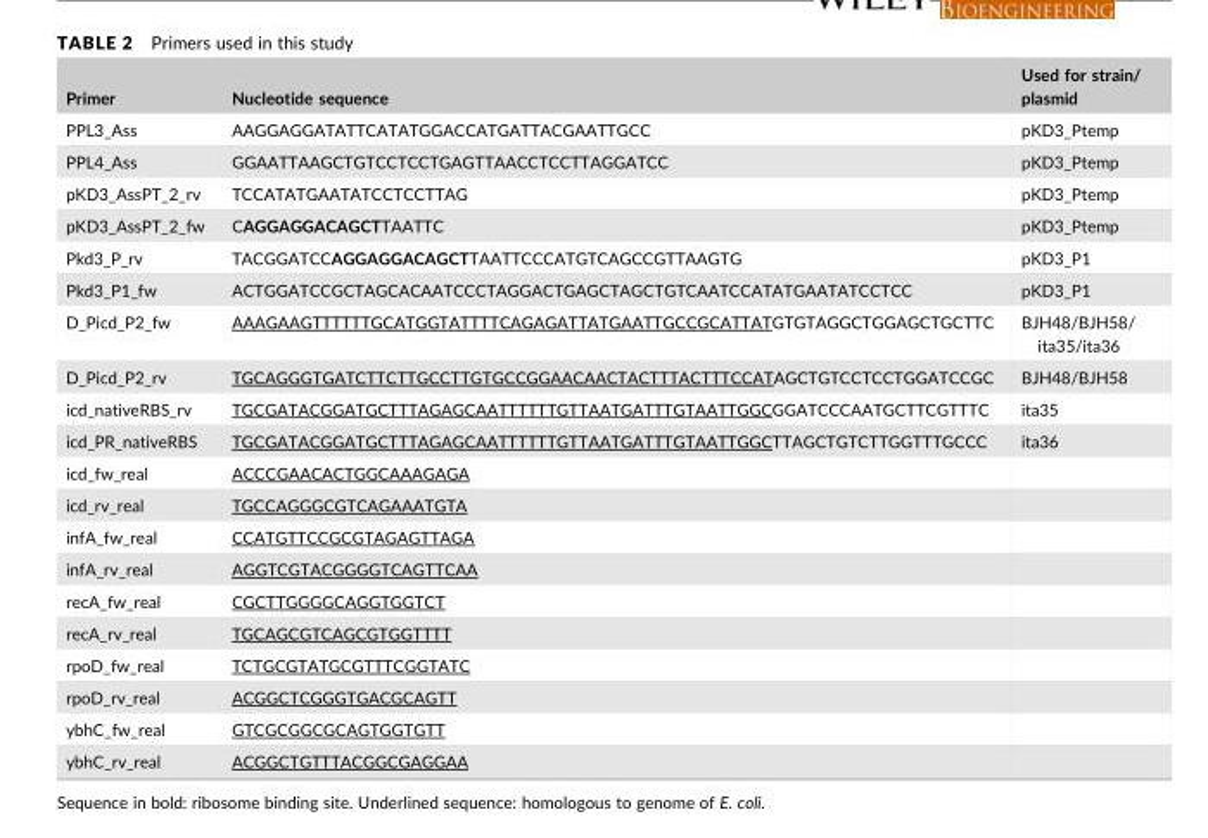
<table><thead><tr><td>Primer</td><td>Nucleotide sequence</td><td>Used for strain/ plasmid</td></tr></thead><tbody><tr><td>PPL3_Ass</td><td>AAGGAGGATATTCATATGGACCATGATTACGAATTGCC</td><td>pKD3_Ptemp</td></tr><tr><td>PPL4_Ass</td><td>GGAATTAAGCTGTCCTCCTGAGTTAACCTCCTTAGGATCC</td><td>pKD3_Ptemp</td></tr><tr><td>pKD3_AssPT_2_rv</td><td>TCCATATGAATATCCTCCTTAG</td><td>pKD3_Ptemp</td></tr><tr><td>pKD3_AssPT_2_fw</td><td>CAGGAGGACAGCTTAATTC</td><td>pKD3_Ptemp</td></tr><tr><td>Pkd3_P_rv</td><td>TACGGATCCAGGAGGACAGCTTAATTCCCATGTCAGCCGTTAAGTG</td><td>pKD3_P1</td></tr><tr><td>Pkd3_P1_fw</td><td>ACTGGATCCGCTAGCACAATCCCTAGGACTGAGCTAGCTGTCAATCCATATGAATATCCTCC</td><td>pKD3_P1</td></tr><tr><td>D_Picd_P2_fw</td><td>AAAGAAGTTTTTTGCATGGTATTTTCAGAGATTATGAATTGCCGCATTATGTGTAGGCTGGAGCTGCTTC</td><td>BJH48/BJH58/ ita35/ita36</td></tr><tr><td>D_Picd_P2_rv</td><td>TGCAGGGTGATCTTCTTGCCTTGTGCCGGAACAACTACTTTACTTTCCATAGCTGTCCTCCTGGATCCGC</td><td>BJH48/BJH58</td></tr><tr><td>icd_nativeRBS_rv</td><td>TGCGATACGGATGCTTTAGAGCAATTTTTTGTTAATGATTTGTAATTGGCGGATCCCAATGCTTCGTTTC</td><td>ita35</td></tr><tr><td>icd_PR_nativeRBS</td><td>TGCGATACGGATGCTTTAGAGCAATTTTTTGTTAATGATTTGTAATTGGCTTAGCTGTCTTGGTTTGCCC</td><td>ita36</td></tr><tr><td>icd_fw_real</td><td>ACCCGAACACTGGCAAAGAGA</td><td></td></tr><tr><td>icd_rv_real</td><td>TGCCAGGGCGTCAGAAATGTA</td><td></td></tr><tr><td>infA_fw_real</td><td>CCATGTTCCGCGTAGAGTTAGA</td><td></td></tr><tr><td>infA_rv_real</td><td>AGGTCGTACGGGGTCAGTTCAA</td><td></td></tr><tr><td>recA_fw_real</td><td>CGCTTGGGGCAGGTGGTCT</td><td></td></tr><tr><td>recA_rv_real</td><td>TGCAGCGTCAGCGTGGTTTT</td><td></td></tr><tr><td>rpoD_fw_real</td><td>TCTGCGTATGCGTTTCGGTATC</td><td></td></tr><tr><td>rpoD_rv_real</td><td>ACGGCTCGGGTGACGCAGTT</td><td></td></tr><tr><td>ybhC_fw_real</td><td>GTCGCGGCGCAGTGGTGTT</td><td></td></tr><tr><td>ybhC_rv_real</td><td>ACGGCTGTTTACGGCGAGGAA</td><td></td></tr></tbody></table>